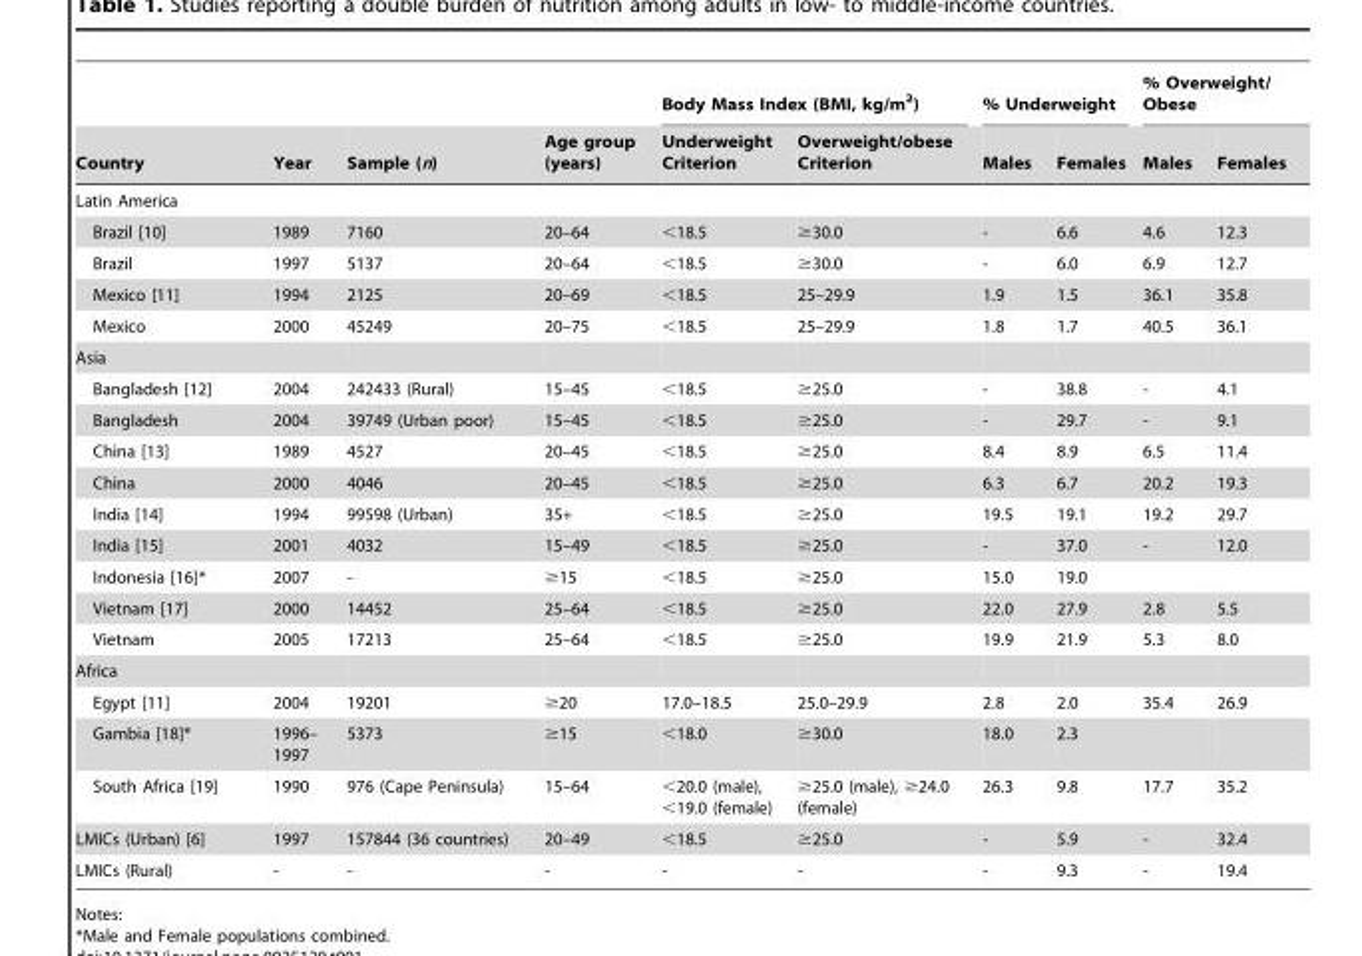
<table><thead><tr><td rowspan="2">Country</td><td rowspan="2">Year</td><td rowspan="2">Sample (n)</td><td rowspan="2">Age group (years)</td><td colspan="2">Body Mass Index (BMI, kg/m<sup>2</sup>)</td><td colspan="2">% Underweight</td><td colspan="2">% Overweight/ Obese</td></tr><tr><td>Underweight Criterion</td><td>Overweight/obese Criterion</td><td>Males</td><td>Females</td><td>Males</td><td>Females</td></tr></thead><tbody><tr><td colspan="10">Latin America</td></tr><tr><td>Brazil [10]</td><td>1989</td><td>7160</td><td>20–64</td><td>&lt;18.5</td><td>≥30.0</td><td>-</td><td>6.6</td><td>4.6</td><td>12.3</td></tr><tr><td>Brazil</td><td>1997</td><td>5137</td><td>20–64</td><td>&lt;18.5</td><td>≥30.0</td><td>-</td><td>6.0</td><td>6.9</td><td>12.7</td></tr><tr><td>Mexico [11]</td><td>1994</td><td>2125</td><td>20–69</td><td>&lt;18.5</td><td>25–29.9</td><td>1.9</td><td>1.5</td><td>36.1</td><td>35.8</td></tr><tr><td>Mexico</td><td>2000</td><td>45249</td><td>20–75</td><td>&lt;18.5</td><td>25–29.9</td><td>1.8</td><td>1.7</td><td>40.5</td><td>36.1</td></tr><tr><td colspan="10">Asia</td></tr><tr><td>Bangladesh [12]</td><td>2004</td><td>242433 (Rural)</td><td>15–45</td><td>&lt;18.5</td><td>≥25.0</td><td>-</td><td>38.8</td><td>-</td><td>4.1</td></tr><tr><td>Bangladesh</td><td>2004</td><td>39749 (Urban poor)</td><td>15–45</td><td>&lt;18.5</td><td>≥25.0</td><td>-</td><td>29.7</td><td>-</td><td>9.1</td></tr><tr><td>China [13]</td><td>1989</td><td>4527</td><td>20–45</td><td>&lt;18.5</td><td>≥25.0</td><td>8.4</td><td>8.9</td><td>6.5</td><td>11.4</td></tr><tr><td>China</td><td>2000</td><td>4046</td><td>20–45</td><td>&lt;18.5</td><td>≥25.0</td><td>6.3</td><td>6.7</td><td>20.2</td><td>19.3</td></tr><tr><td>India [14]</td><td>1994</td><td>99598 (Urban)</td><td>35+</td><td>&lt;18.5</td><td>≥25.0</td><td>19.5</td><td>19.1</td><td>19.2</td><td>29.7</td></tr><tr><td>India [15]</td><td>2001</td><td>4032</td><td>15–49</td><td>&lt;18.5</td><td>≥25.0</td><td>-</td><td>37.0</td><td>-</td><td>12.0</td></tr><tr><td>Indonesia [16]*</td><td>2007</td><td>-</td><td>≥15</td><td>&lt;18.5</td><td>≥25.0</td><td>15.0</td><td>19.0</td><td></td><td></td></tr><tr><td>Vietnam [17]</td><td>2000</td><td>14452</td><td>25–64</td><td>&lt;18.5</td><td>≥25.0</td><td>22.0</td><td>27.9</td><td>2.8</td><td>5.5</td></tr><tr><td>Vietnam</td><td>2005</td><td>17213</td><td>25–64</td><td>&lt;18.5</td><td>≥25.0</td><td>19.9</td><td>21.9</td><td>5.3</td><td>8.0</td></tr><tr><td colspan="10">Africa</td></tr><tr><td>Egypt [11]</td><td>2004</td><td>19201</td><td>≥20</td><td>17.0–18.5</td><td>25.0–29.9</td><td>2.8</td><td>2.0</td><td>35.4</td><td>26.9</td></tr><tr><td>Gambia [18]*</td><td>1996– 1997</td><td>5373</td><td>≥15</td><td>&lt;18.0</td><td>≥30.0</td><td>18.0</td><td>2.3</td><td></td><td></td></tr><tr><td>South Africa [19]</td><td>1990</td><td>976 (Cape Peninsula)</td><td>15–64</td><td>&lt;20.0 (male), &lt;19.0 (female)</td><td>≥25.0 (male), ≥24.0 (female)</td><td>26.3</td><td>9.8</td><td>17.7</td><td>35.2</td></tr><tr><td>LMICs (Urban) [6]</td><td>1997</td><td>157844 (36 countries)</td><td>20–49</td><td>&lt;18.5</td><td>≥25.0</td><td>-</td><td>5.9</td><td>-</td><td>32.4</td></tr><tr><td>LMICs (Rural)</td><td>-</td><td>-</td><td>-</td><td>-</td><td>-</td><td>-</td><td>9.3</td><td>-</td><td>19.4</td></tr></tbody></table>